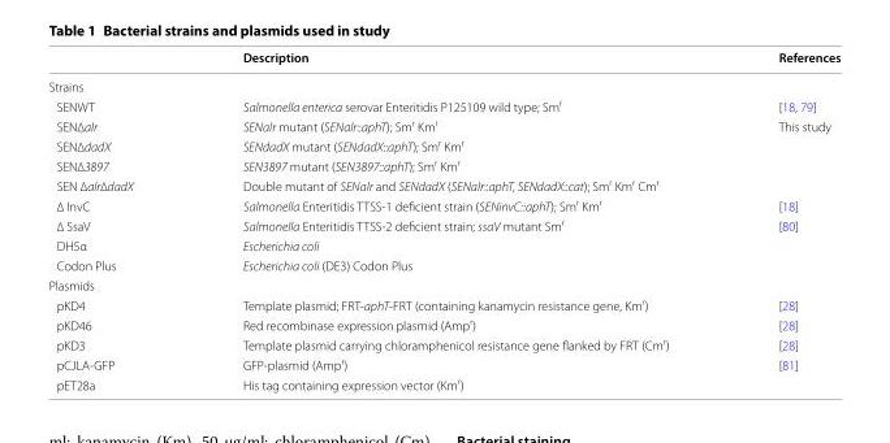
<table><thead><tr><td></td><td>Description</td><td>References</td></tr></thead><tbody><tr><td colspan="3">Strains</td></tr><tr><td>SENWT</td><td>Salmonella enterica serovar Enteritidis P125109 wild type; Sm<sup>r</sup></td><td>[18, 79]</td></tr><tr><td>SEN∆alr</td><td>SENalr mutant (SENalr::aphT); Sm<sup>r</sup> Km<sup>r</sup></td><td rowspan="4">This study</td></tr><tr><td>SEN∆dadX</td><td>SENdadX mutant (SENdadX::aphT); Sm<sup>r</sup> Km<sup>r</sup></td></tr><tr><td>SEN∆3897</td><td>SEN3897 mutant (SEN3897::aphT); Sm<sup>r</sup> Km<sup>r</sup></td></tr><tr><td>SEN ∆alr∆dadX</td><td>Double mutant of SENalr and SENdadX (SENalr::aphT, SENdadX::cat); Sm<sup>r</sup> Km<sup>r</sup> Cm<sup>r</sup></td></tr><tr><td>∆ InvC</td><td>Salmonella Enteritidis TTSS-1 deficient strain (SENinvC::aphT); Sm<sup>r</sup> Km<sup>r</sup></td><td>[18]</td></tr><tr><td>∆ SsaV</td><td>Salmonella Enteritidis TTSS-2 deficient strain; ssaV mutant Sm<sup>r</sup></td><td>[80]</td></tr><tr><td>DH5α</td><td>Escherichia coli</td><td></td></tr><tr><td>Codon Plus</td><td>Escherichia coli (DE3) Codon Plus</td><td></td></tr><tr><td colspan="3">Plasmids</td></tr><tr><td>pKD4</td><td>Template plasmid; FRT-aphT-FRT (containing kanamycin resistance gene, Km<sup>r</sup>)</td><td>[28]</td></tr><tr><td>pKD46</td><td>Red recombinase expression plasmid (Amp<sup>r</sup>)</td><td>[28]</td></tr><tr><td>pKD3</td><td>Template plasmid carrying chloramphenicol resistance gene flanked by FRT (Cm<sup>r</sup>)</td><td>[28]</td></tr><tr><td>pCJLA-GFP</td><td>GFP-plasmid (Amp<sup>r</sup>)</td><td>[81]</td></tr><tr><td>pET28a</td><td>His tag containing expression vector (Km<sup>r</sup>)</td><td></td></tr></tbody></table>